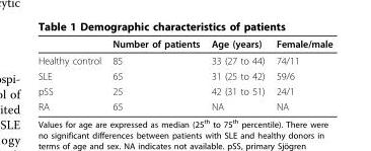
<table><thead><tr><td></td><td>Number of patients</td><td>Age (years)</td><td>Female/male</td></tr></thead><tbody><tr><td>Healthy control</td><td>85</td><td>33 (27 to 44)</td><td>74/11</td></tr><tr><td>SLE</td><td>65</td><td>31 (25 to 42)</td><td>59/6</td></tr><tr><td>pSS</td><td>25</td><td>42 (31 to 51)</td><td>24/1</td></tr><tr><td>RA</td><td>65</td><td>NA</td><td>NA</td></tr></tbody></table>